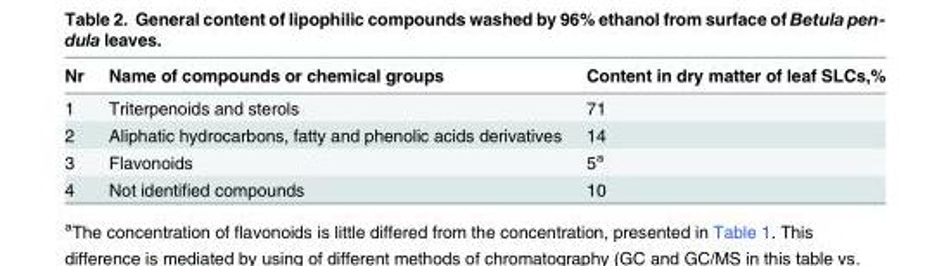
<table><thead><tr><td>Nr</td><td>Name of compounds or chemical groups</td><td>Content in dry matter of leaf SLCs,%</td></tr></thead><tbody><tr><td>1</td><td>Triterpenoids and sterols</td><td>71</td></tr><tr><td>2</td><td>Aliphatic hydrocarbons, fatty and phenolic acids derivatives</td><td>14</td></tr><tr><td>3</td><td>Flavonoids</td><td>5<sup>a</sup></td></tr><tr><td>4</td><td>Not identified compounds</td><td>10</td></tr></tbody></table>